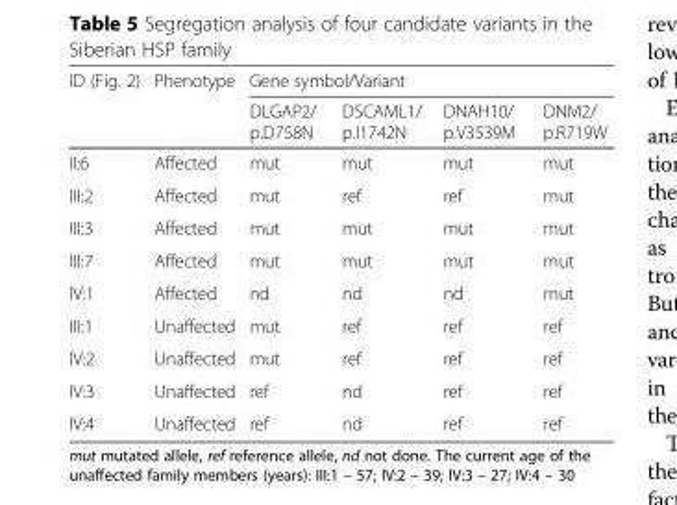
<table><thead><tr><td rowspan="2">ID (Fig. 2)</td><td rowspan="2">Phenotype</td><td colspan="4">Gene symbol/Variant</td></tr><tr><td>DLGAP2/ p.D758N</td><td>DSCAML1/ p.I1742N</td><td>DNAH10/ p.V3539M</td><td>DNM2/ p.R719W</td></tr></thead><tbody><tr><td>II:6</td><td>Affected</td><td>mut</td><td>mut</td><td>mut</td><td>mut</td></tr><tr><td>III:2</td><td>Affected</td><td>mut</td><td>ref</td><td>ref</td><td>mut</td></tr><tr><td>III:3</td><td>Affected</td><td>mut</td><td>mut</td><td>mut</td><td>mut</td></tr><tr><td>III:7</td><td>Affected</td><td>mut</td><td>mut</td><td>mut</td><td>mut</td></tr><tr><td>IV:1</td><td>Affected</td><td>nd</td><td>nd</td><td>nd</td><td>mut</td></tr><tr><td>III:1</td><td>Unaffected</td><td>mut</td><td>ref</td><td>ref</td><td>ref</td></tr><tr><td>IV:2</td><td>Unaffected</td><td>mut</td><td>ref</td><td>ref</td><td>ref</td></tr><tr><td>IV:3</td><td>Unaffected</td><td>ref</td><td>nd</td><td>ref</td><td>ref</td></tr><tr><td>IV:4</td><td>Unaffected</td><td>ref</td><td>nd</td><td>ref</td><td>ref</td></tr></tbody></table>